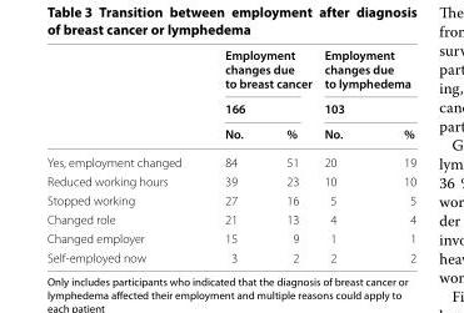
<table><thead><tr><td rowspan="3"></td><td rowspan="2" colspan="2">Employment changes due to breast cancer 166</td><td rowspan="2" colspan="2">Employment changes due to lymphedema 103</td></tr><tr></tr><tr><td>No.</td><td>%</td><td>No.</td><td>%</td></tr></thead><tbody><tr><td>Yes, employment changed</td><td>84</td><td>51</td><td>20</td><td>19</td></tr><tr><td>Reduced working hours</td><td>39</td><td>23</td><td>10</td><td>10</td></tr><tr><td>Stopped working</td><td>27</td><td>16</td><td>5</td><td>5</td></tr><tr><td>Changed role</td><td>21</td><td>13</td><td>4</td><td>4</td></tr><tr><td>Changed employer</td><td>15</td><td>9</td><td>1</td><td>1</td></tr><tr><td>Self-employed now</td><td>3</td><td>2</td><td>2</td><td>2</td></tr></tbody></table>